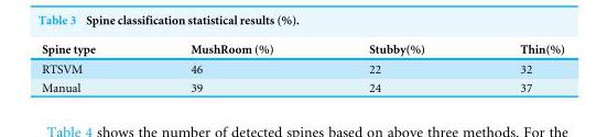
<table><thead><tr><td>Spine type</td><td>MushRoom (%)</td><td>Stubby(%)</td><td>Thin(%)</td></tr></thead><tbody><tr><td>RTSVM</td><td>46</td><td>22</td><td>32</td></tr><tr><td>Manual</td><td>39</td><td>24</td><td>37</td></tr></tbody></table>